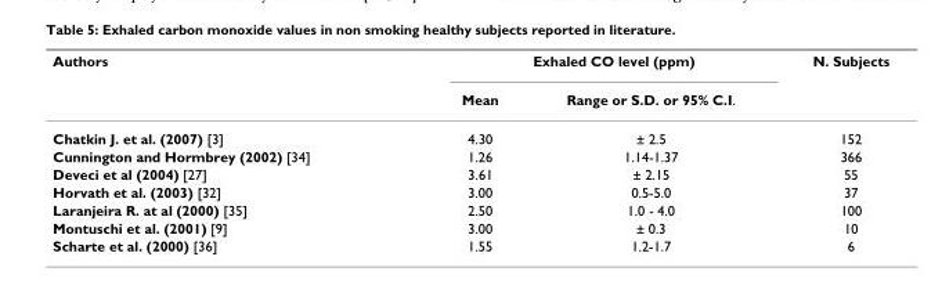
<table><thead><tr><td rowspan="2">Authors</td><td colspan="2">Exhaled CO level (ppm)</td><td rowspan="2">N. Subjects</td></tr><tr><td>Mean</td><td>Range or S.D. or 95% C.I.</td></tr></thead><tbody><tr><td>Chatkin J. et al. (2007) [3]</td><td>4.30</td><td>± 2.5</td><td>152</td></tr><tr><td>Cunnington and Hormbrey (2002) [34]</td><td>1.26</td><td>1.14-1.37</td><td>366</td></tr><tr><td>Deveci et al (2004) [27]</td><td>3.61</td><td>± 2.15</td><td>55</td></tr><tr><td>Horvath et al. (2003) [32]</td><td>3.00</td><td>0.5-5.0</td><td>37</td></tr><tr><td>Laranjeira R. at al (2000) [35]</td><td>2.50</td><td>1.0 - 4.0</td><td>100</td></tr><tr><td>Montuschi et al. (2001) [9]</td><td>3.00</td><td>± 0.3</td><td>10</td></tr><tr><td>Scharte et al. (2000) [36]</td><td>1.55</td><td>1.2-1.7</td><td>6</td></tr></tbody></table>